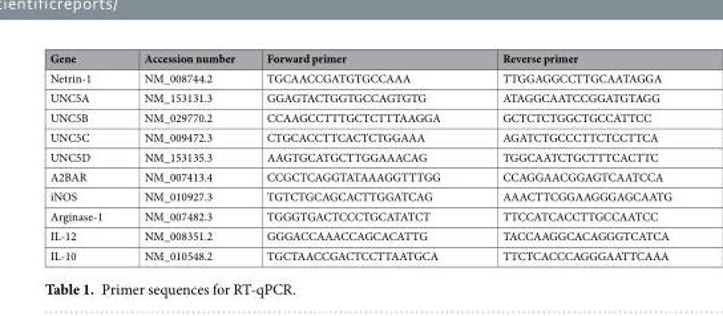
<table><thead><tr><td>Gene</td><td>Accession number</td><td>Forward primer</td><td>Reverse primer</td></tr></thead><tbody><tr><td>Netrin-1</td><td>NM_008744.2</td><td>TGCAACCGATGTGCCAAA</td><td>TTGGAGGCCTTGCAATAGGA</td></tr><tr><td>UNC5A</td><td>NM_153131.3</td><td>GGAGTACTGGTGCCAGTGTG</td><td>ATAGGCAATCCGGATGTAGG</td></tr><tr><td>UNC5B</td><td>NM_029770.2</td><td>CCAAGCCTTTGCTCTTTAAGGA</td><td>GCTCTCTGGCTGCCATTCC</td></tr><tr><td>UNC5C</td><td>NM_009472.3</td><td>CTGCACCTTCACTCTGGAAA</td><td>AGATCTGCCCTTCTCCTTCA</td></tr><tr><td>UNC5D</td><td>NM_153135.3</td><td>AAGTGCATGCTTGGAAACAG</td><td>TGGCAATCTGCTTTCACTTC</td></tr><tr><td>A2BAR</td><td>NM_007413.4</td><td>CCGCTCAGGTATAAAGGTTTGG</td><td>CCAGGAACGGAGTCAATCCA</td></tr><tr><td>iNOS</td><td>NM_010927.3</td><td>TGTCTGCAGCACTTGGATCAG</td><td>AAACTTCGGAAGGGAGCAATG</td></tr><tr><td>Arginase-1</td><td>NM_007482.3</td><td>TGGGTGACTCCCTGCATATCT</td><td>TTCCATCACCTTGCCAATCC</td></tr><tr><td>IL-12</td><td>NM_008351.2</td><td>GGGACCAAACCAGCACATTG</td><td>TACCAAGGCACAGGGTCATCA</td></tr><tr><td>IL-10</td><td>NM_010548.2</td><td>TGCTAACCGACTCCTTAATGCA</td><td>TTCTCACCCAGGGAATTCAAA</td></tr></tbody></table>